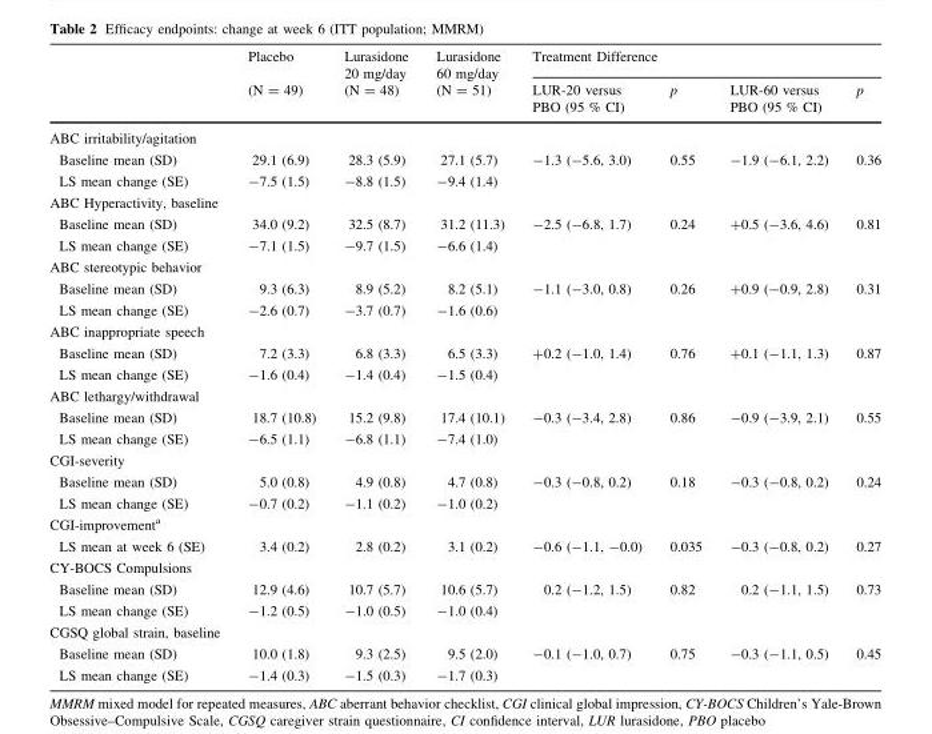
<table><thead><tr><td rowspan="2"></td><td rowspan="2">Placebo (N = 49)</td><td rowspan="2">Lurasidone 20 mg/day (N = 48)</td><td rowspan="2">Lurasidone 60 mg/day (N = 51)</td><td colspan="4">Treatment Difference</td></tr><tr><td>LUR-20 versus PBO (95 % CI)</td><td>p</td><td>LUR-60 versus PBO (95 % CI)</td><td>p</td></tr></thead><tbody><tr><td colspan="8">ABC irritability/agitation</td></tr><tr><td>Baseline mean (SD)</td><td>29.1 (6.9)</td><td>28.3 (5.9)</td><td>27.1 (5.7)</td><td>-1.3 (-5.6, 3.0)</td><td>0.55</td><td>-1.9 (-6.1, 2.2)</td><td>0.36</td></tr><tr><td>LS mean change (SE)</td><td>-7.5 (1.5)</td><td>-8.8 (1.5)</td><td>-9.4 (1.4)</td><td></td><td></td><td></td><td></td></tr><tr><td colspan="8">ABC Hyperactivity, baseline</td></tr><tr><td>Baseline mean (SD)</td><td>34.0 (9.2)</td><td>32.5 (8.7)</td><td>31.2 (11.3)</td><td>-2.5 (-6.8, 1.7)</td><td>0.24</td><td>+0.5 (-3.6, 4.6)</td><td>0.81</td></tr><tr><td>LS mean change (SE)</td><td>-7.1 (1.5)</td><td>-9.7 (1.5)</td><td>-6.6 (1.4)</td><td></td><td></td><td></td><td></td></tr><tr><td colspan="8">ABC stereotypic behavior</td></tr><tr><td>Baseline mean (SD)</td><td>9.3 (6.3)</td><td>8.9 (5.2)</td><td>8.2 (5.1)</td><td>-1.1 (-3.0, 0.8)</td><td>0.26</td><td>+0.9 (-0.9, 2.8)</td><td>0.31</td></tr><tr><td>LS mean change (SE)</td><td>-2.6 (0.7)</td><td>-3.7 (0.7)</td><td>-1.6 (0.6)</td><td></td><td></td><td></td><td></td></tr><tr><td colspan="8">ABC inappropriate speech</td></tr><tr><td>Baseline mean (SD)</td><td>7.2 (3.3)</td><td>6.8 (3.3)</td><td>6.5 (3.3)</td><td>+0.2 (-1.0, 1.4)</td><td>0.76</td><td>+0.1 (-1.1, 1.3)</td><td>0.87</td></tr><tr><td>LS mean change (SE)</td><td>-1.6 (0.4)</td><td>-1.4 (0.4)</td><td>-1.5 (0.4)</td><td></td><td></td><td></td><td></td></tr><tr><td colspan="8">ABC lethargy/withdrawal</td></tr><tr><td>Baseline mean (SD)</td><td>18.7 (10.8)</td><td>15.2 (9.8)</td><td>17.4 (10.1)</td><td>-0.3 (-3.4, 2.8)</td><td>0.86</td><td>-0.9 (-3.9, 2.1)</td><td>0.55</td></tr><tr><td>LS mean change (SE)</td><td>-6.5 (1.1)</td><td>-6.8 (1.1)</td><td>-7.4 (1.0)</td><td></td><td></td><td></td><td></td></tr><tr><td colspan="8">CGI-severity</td></tr><tr><td>Baseline mean (SD)</td><td>5.0 (0.8)</td><td>4.9 (0.8)</td><td>4.7 (0.8)</td><td>-0.3 (-0.8, 0.2)</td><td>0.18</td><td>-0.3 (-0.8, 0.2)</td><td>0.24</td></tr><tr><td>LS mean change (SE)</td><td>-0.7 (0.2)</td><td>-1.1 (0.2)</td><td>-1.0 (0.2)</td><td></td><td></td><td></td><td></td></tr><tr><td colspan="8">CGI-improvement<sup>a</sup></td></tr><tr><td>LS mean at week 6 (SE)</td><td>3.4 (0.2)</td><td>2.8 (0.2)</td><td>3.1 (0.2)</td><td>-0.6 (-1.1, -0.0)</td><td>0.035</td><td>-0.3 (-0.8, 0.2)</td><td>0.27</td></tr><tr><td colspan="8">CY-BOCS Compulsions</td></tr><tr><td>Baseline mean (SD)</td><td>12.9 (4.6)</td><td>10.7 (5.7)</td><td>10.6 (5.7)</td><td>0.2 (-1.2, 1.5)</td><td>0.82</td><td>0.2 (-1.1, 1.5)</td><td>0.73</td></tr><tr><td>LS mean change (SE)</td><td>-1.2 (0.5)</td><td>-1.0 (0.5)</td><td>-1.0 (0.4)</td><td></td><td></td><td></td><td></td></tr><tr><td colspan="8">CGSQ global strain, baseline</td></tr><tr><td>Baseline mean (SD)</td><td>10.0 (1.8)</td><td>9.3 (2.5)</td><td>9.5 (2.0)</td><td>-0.1 (-1.0, 0.7)</td><td>0.75</td><td>-0.3 (-1.1, 0.5)</td><td>0.45</td></tr><tr><td>LS mean change (SE)</td><td>-1.4 (0.3)</td><td>-1.5 (0.3)</td><td>-1.7 (0.3)</td><td></td><td></td><td></td><td></td></tr></tbody></table>